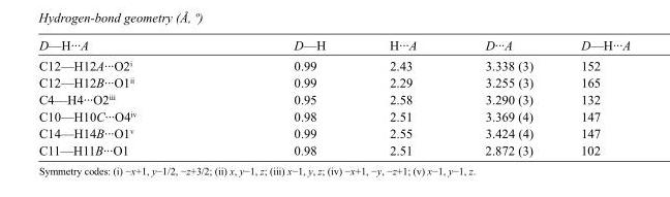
<table><tbody><tr><td>D—H···A</td><td>D—H</td><td>H···A</td><td>D···A</td><td>D—H···A</td></tr><tr><td>C12—H12A···O2<sup>i</sup></td><td>0.99</td><td>2.43</td><td>3.338 (3)</td><td>152</td></tr><tr><td>C12—H12B···O1<sup>ii</sup></td><td>0.99</td><td>2.29</td><td>3.255 (3)</td><td>165</td></tr><tr><td>C4—H4···O2<sup>iii</sup></td><td>0.95</td><td>2.58</td><td>3.290 (3)</td><td>132</td></tr><tr><td>C10—H10C···O4<sup>iv</sup></td><td>0.98</td><td>2.51</td><td>3.369 (4)</td><td>147</td></tr><tr><td>C14—H14B···O1<sup>v</sup></td><td>0.99</td><td>2.55</td><td>3.424 (4)</td><td>147</td></tr><tr><td>C11—H11B···O1</td><td>0.98</td><td>2.51</td><td>2.872 (3)</td><td>102</td></tr></tbody></table>